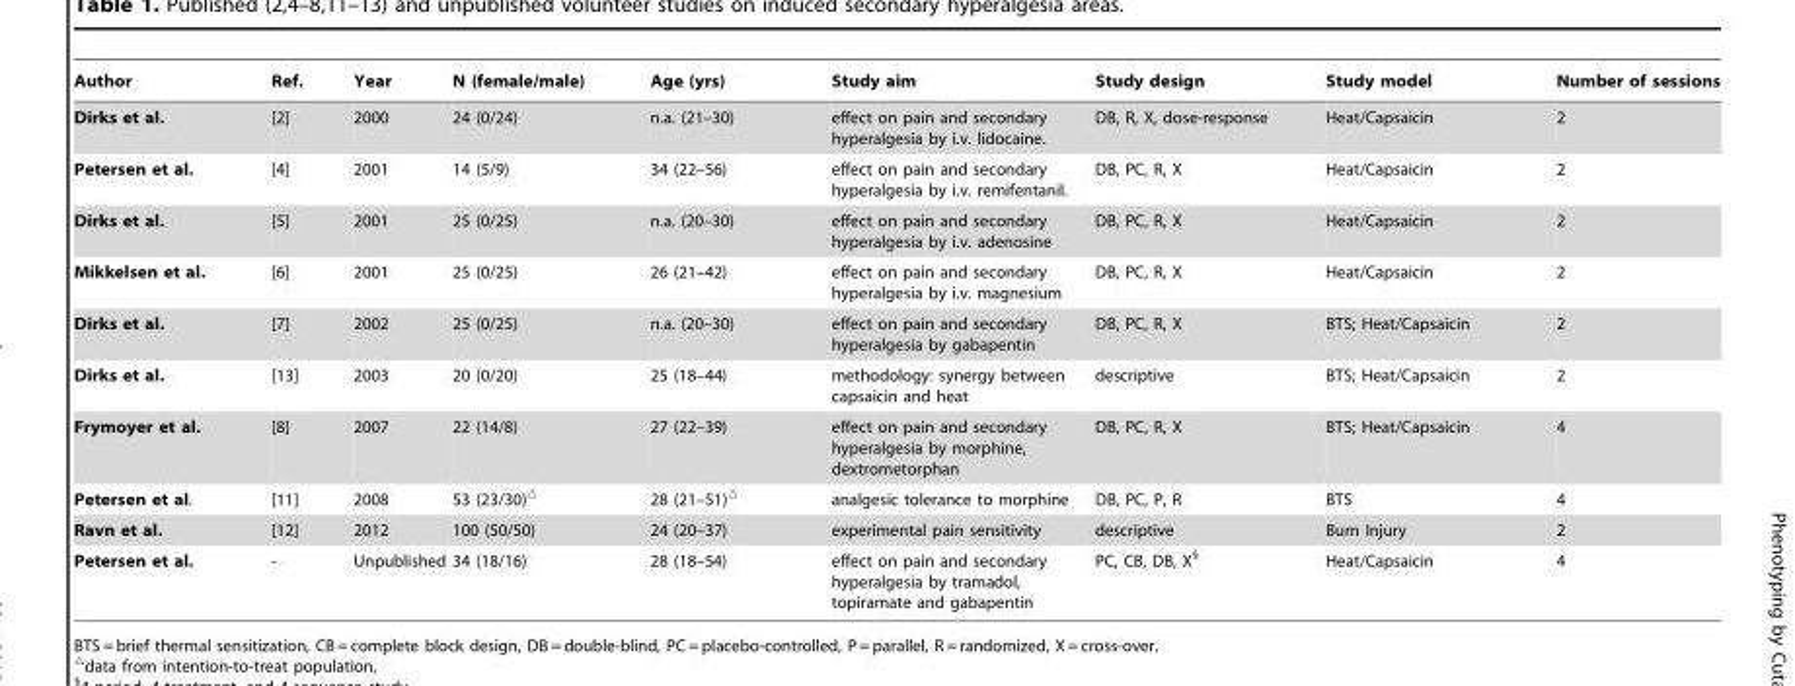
<table><thead><tr><td>Author</td><td>Ref.</td><td>Year</td><td>N (female/male)</td><td>Age (yrs)</td><td>Study aim</td><td>Study design</td><td>Study model</td><td>Number of sessions</td></tr></thead><tbody><tr><td>Dirks et al.</td><td>[2]</td><td>2000</td><td>24 (0/24)</td><td>n.a. (21–30)</td><td>effect on pain and secondary hyperalgesia by i.v. lidocaine.</td><td>DB, R, X, dose-response</td><td>Heat/Capsaicin</td><td>2</td></tr><tr><td>Petersen et al.</td><td>[4]</td><td>2001</td><td>14 (5/9)</td><td>34 (22–56)</td><td>effect on pain and secondary hyperalgesia by i.v. remifentanil.</td><td>DB, PC, R, X</td><td>Heat/Capsaicin</td><td>2</td></tr><tr><td>Dirks et al.</td><td>[5]</td><td>2001</td><td>25 (0/25)</td><td>n.a. (20–30)</td><td>effect on pain and secondary hyperalgesia by i.v. adenosine</td><td>DB, PC, R, X</td><td>Heat/Capsaicin</td><td>2</td></tr><tr><td>Mikkelsen et al.</td><td>[6]</td><td>2001</td><td>25 (0/25)</td><td>26 (21–42)</td><td>effect on pain and secondary hyperalgesia by i.v. magnesium</td><td>DB, PC, R, X</td><td>Heat/Capsaicin</td><td>2</td></tr><tr><td>Dirks et al.</td><td>[7]</td><td>2002</td><td>25 (0/25)</td><td>n.a. (20–30)</td><td>effect on pain and secondary hyperalgesia by gabapentin</td><td>DB, PC, R, X</td><td>BTS; Heat/Capsaicin</td><td>2</td></tr><tr><td>Dirks et al.</td><td>[13]</td><td>2003</td><td>20 (0/20)</td><td>25 (18–44)</td><td>methodology: synergy between capsaicin and heat</td><td>descriptive</td><td>BTS; Heat/Capsaicin</td><td>2</td></tr><tr><td>Frymoyer et al.</td><td>[8]</td><td>2007</td><td>22 (14/8)</td><td>27 (22–39)</td><td>effect on pain and secondary hyperalgesia by morphine, dextrometorphan</td><td>DB, PC, R, X</td><td>BTS; Heat/Capsaicin</td><td>4</td></tr><tr><td>Petersen et al.</td><td>[11]</td><td>2008</td><td>53 (23/30)▵</td><td>28 (21–51)▵</td><td>analgesic tolerance to morphine</td><td>DB, PC, P, R</td><td>BTS</td><td>4</td></tr><tr><td>Ravn et al.</td><td>[12]</td><td>2012</td><td>100 (50/50)</td><td>24 (20–37)</td><td>experimental pain sensitivity</td><td>descriptive</td><td>Burn Injury</td><td>2</td></tr><tr><td>Petersen et al.</td><td>-</td><td>Unpublished</td><td>34 (18/16)</td><td>28 (18–54)</td><td>effect on pain and secondary hyperalgesia by tramadol, topiramate and gabapentin</td><td>PC, CB, DB, X§</td><td>Heat/Capsaicin</td><td>4</td></tr></tbody></table>